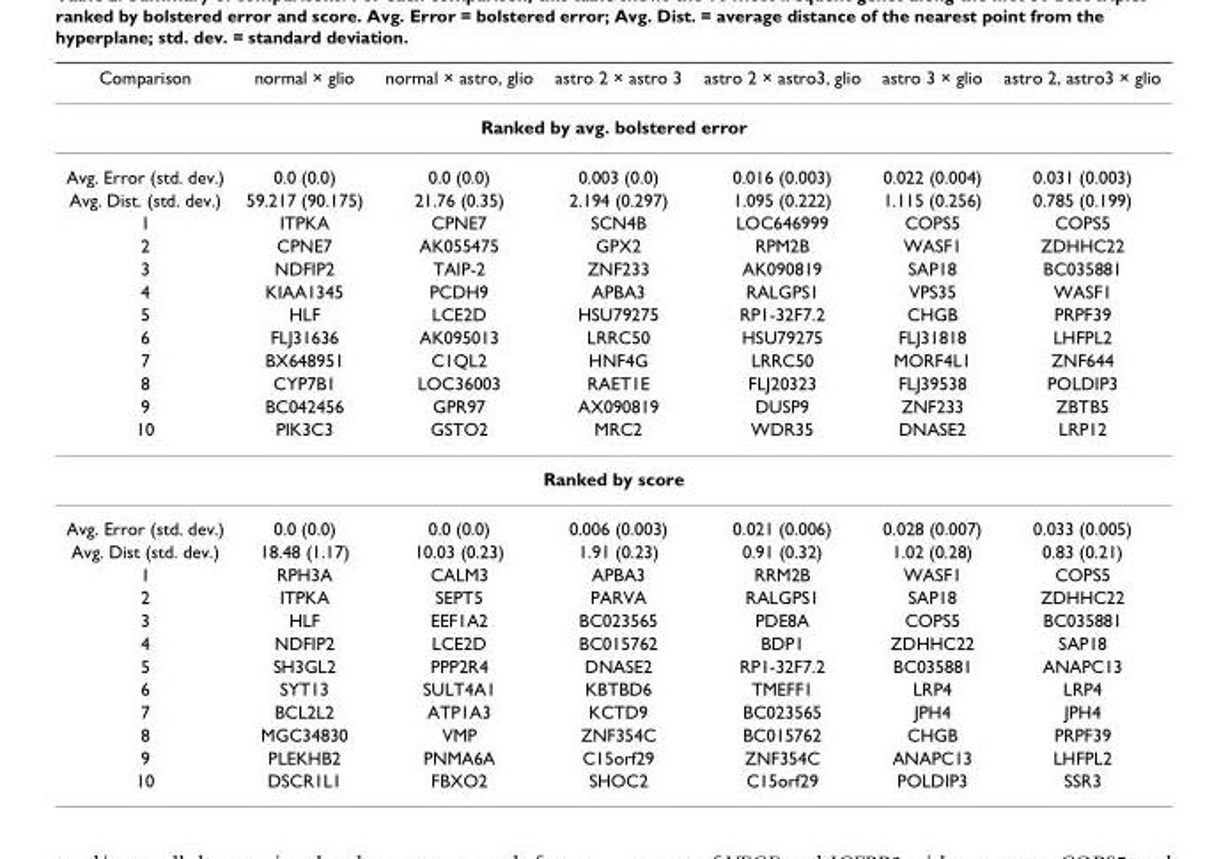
<table><thead><tr><td>Comparison</td><td>normal × glio</td><td>normal × astro, glio</td><td>astro 2 × astro 3</td><td>astro 2 × astro3, glio</td><td>astro 3 × glio</td><td>astro 2, astro3 × glio</td></tr></thead><tbody><tr><td colspan="7">Ranked by avg. bolstered error</td></tr><tr><td>Avg. Error (std. dev.)</td><td>0.0 (0.0)</td><td>0.0 (0.0)</td><td>0.003 (0.0)</td><td>0.016 (0.003)</td><td>0.022 (0.004)</td><td>0.031 (0.003)</td></tr><tr><td>Avg. Dist. (std. dev.)</td><td>59.217 (90.175)</td><td>21.76 (0.35)</td><td>2.194 (0.297)</td><td>1.095 (0.222)</td><td>1.115 (0.256)</td><td>0.785 (0.199)</td></tr><tr><td>1</td><td>ITPKA</td><td>CPNE7</td><td>SCN4B</td><td>LOC646999</td><td>COPS5</td><td>COPS5</td></tr><tr><td>2</td><td>CPNE7</td><td>AK055475</td><td>GPX2</td><td>RPM2B</td><td>WASF1</td><td>ZDHHC22</td></tr><tr><td>3</td><td>NDFIP2</td><td>TAIP-2</td><td>ZNF233</td><td>AK090819</td><td>SAP18</td><td>BC035881</td></tr><tr><td>4</td><td>KIAA1345</td><td>PCDH9</td><td>APBA3</td><td>RALGPS1</td><td>VPS35</td><td>WASF1</td></tr><tr><td>5</td><td>HLF</td><td>LCE2D</td><td>HSU79275</td><td>RP1-32F7.2</td><td>CHGB</td><td>PRPF39</td></tr><tr><td>6</td><td>FLJ31636</td><td>AK095013</td><td>LRRC50</td><td>HSU79275</td><td>FLJ31818</td><td>LHFPL2</td></tr><tr><td>7</td><td>BX648951</td><td>C1QL2</td><td>HNF4G</td><td>LRRC50</td><td>MORF4L1</td><td>ZNF644</td></tr><tr><td>8</td><td>CYP7B1</td><td>LOC36003</td><td>RAET1E</td><td>FLJ20323</td><td>FLJ39538</td><td>POLDIP3</td></tr><tr><td>9</td><td>BC042456</td><td>GPR97</td><td>AX090819</td><td>DUSP9</td><td>ZNF233</td><td>ZBTB5</td></tr><tr><td>10</td><td>PIK3C3</td><td>GSTO2</td><td>MRC2</td><td>WDR35</td><td>DNASE2</td><td>LRP12</td></tr><tr><td colspan="7">Ranked by score</td></tr><tr><td>Avg. Error (std. dev.)</td><td>0.0 (0.0)</td><td>0.0 (0.0)</td><td>0.006 (0.003)</td><td>0.021 (0.006)</td><td>0.028 (0.007)</td><td>0.033 (0.005)</td></tr><tr><td>Avg. Dist (std. dev.)</td><td>18.48 (1.17)</td><td>10.03 (0.23)</td><td>1.91 (0.23)</td><td>0.91 (0.32)</td><td>1.02 (0.28)</td><td>0.83 (0.21)</td></tr><tr><td>1</td><td>RPH3A</td><td>CALM3</td><td>APBA3</td><td>RRM2B</td><td>WASF1</td><td>COPS5</td></tr><tr><td>2</td><td>ITPKA</td><td>SEPT5</td><td>PARVA</td><td>RALGPS1</td><td>SAP18</td><td>ZDHHC22</td></tr><tr><td>3</td><td>HLF</td><td>EEF1A2</td><td>BC023565</td><td>PDE8A</td><td>COPS5</td><td>BC035881</td></tr><tr><td>4</td><td>NDFIP2</td><td>LCE2D</td><td>BC015762</td><td>BDP1</td><td>ZDHHC22</td><td>SAP18</td></tr><tr><td>5</td><td>SH3GL2</td><td>PPP2R4</td><td>DNASE2</td><td>RP1-32F7.2</td><td>BC035881</td><td>ANAPC13</td></tr><tr><td>6</td><td>SYT13</td><td>SULT4A1</td><td>KBTBD6</td><td>TMEFF1</td><td>LRP4</td><td>LRP4</td></tr><tr><td>7</td><td>BCL2L2</td><td>ATP1A3</td><td>KCTD9</td><td>BC023565</td><td>JPH4</td><td>JPH4</td></tr><tr><td>8</td><td>MGC34830</td><td>VMP</td><td>ZNF354C</td><td>BC015762</td><td>CHGB</td><td>PRPF39</td></tr><tr><td>9</td><td>PLEKHB2</td><td>PNMA6A</td><td>C15orf29</td><td>ZNF354C</td><td>ANAPC13</td><td>LHFPL2</td></tr><tr><td>10</td><td>DSCR1L1</td><td>FBXO2</td><td>SHOC2</td><td>C15orf29</td><td>POLDIP3</td><td>SSR3</td></tr></tbody></table>